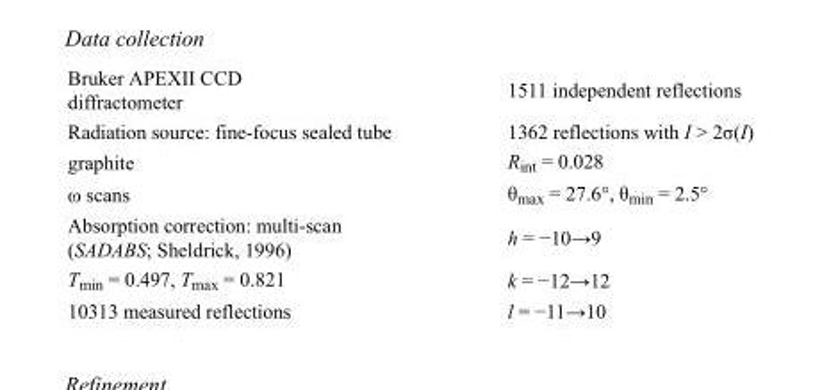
<table><tbody><tr><td>Bruker APEXII CCD diffractometer</td><td>1511 independent reflections</td></tr><tr><td>Radiation source: fine-focus sealed tube</td><td>1362 reflections with I &gt; 2σ(I)</td></tr><tr><td>graphite</td><td>R<sub>int</sub> = 0.028</td></tr><tr><td>ω scans</td><td>θ<sub>max</sub> = 27.6°, θ<sub>min</sub> = 2.5°</td></tr><tr><td>Absorption correction: multi-scan (SADABS; Sheldrick, 1996)</td><td>h = −10→9</td></tr><tr><td>T<sub>min</sub> = 0.497, T<sub>max</sub> = 0.821</td><td>k = −12→12</td></tr><tr><td>10313 measured reflections</td><td>l = −11→10</td></tr></tbody></table>